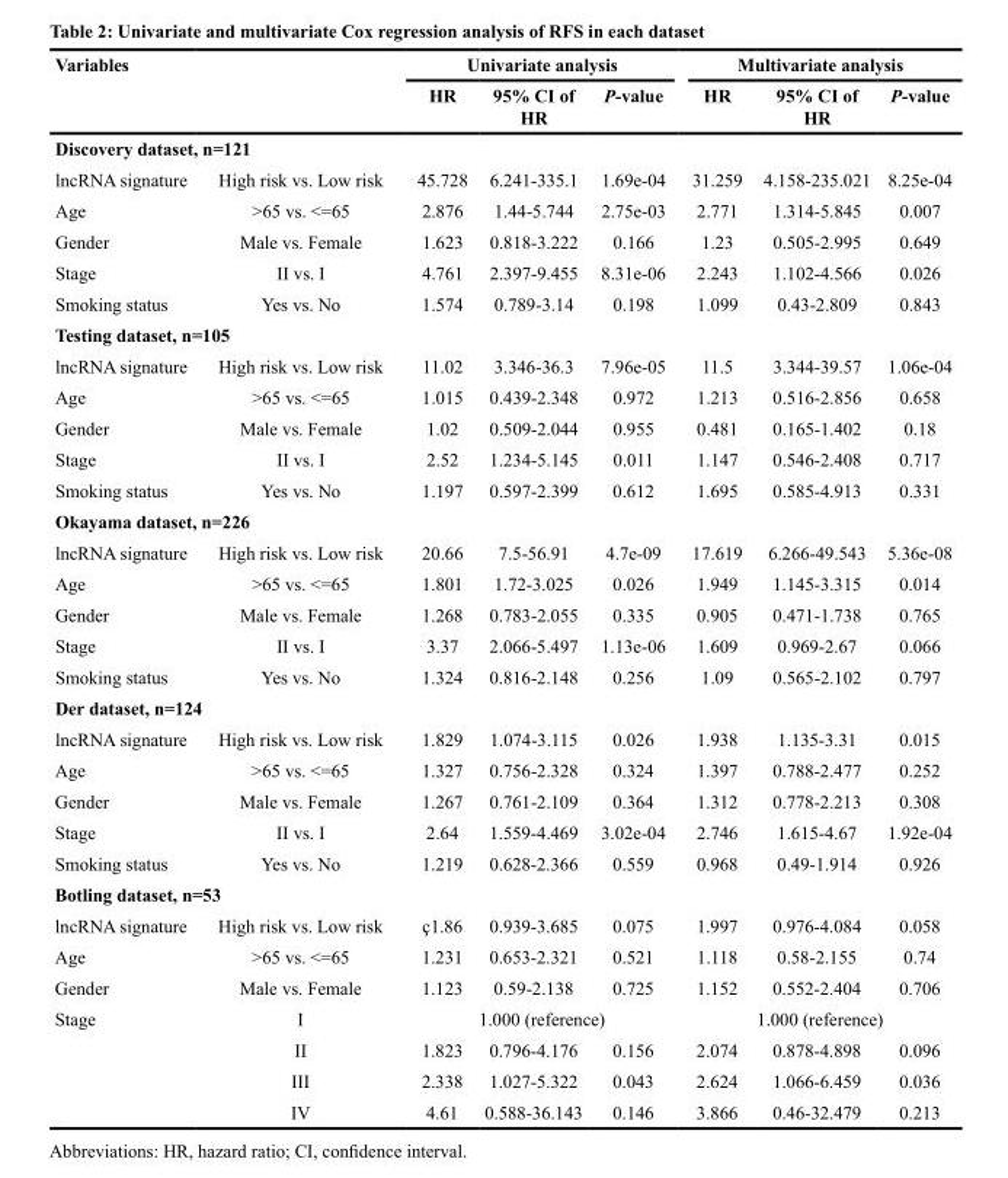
<table><thead><tr><td rowspan="2" colspan="2">Variables</td><td colspan="3">Univariate analysis</td><td colspan="3">Multivariate analysis</td></tr><tr><td>HR</td><td>95% CI of HR</td><td>P -value</td><td>HR</td><td>95% CI of HR</td><td>P -value</td></tr><tr><td colspan="8">Discovery dataset, n=121</td></tr><tr><td>lncRNA signature</td><td>High risk vs. Low risk</td><td>45.728</td><td>6.241-335.1</td><td>1.69e-04</td><td>31.259</td><td>4.158-235.021</td><td>8.25e-04</td></tr></thead><tbody><tr><td>Age</td><td>&gt;65 vs. &lt;=65</td><td>2.876</td><td>1.44-5.744</td><td>2.75e-03</td><td>2.771</td><td>1.314-5.845</td><td>0.007</td></tr><tr><td>Gender</td><td>Male vs. Female</td><td>1.623</td><td>0.818-3.222</td><td>0.166</td><td>1.23</td><td>0.505-2.995</td><td>0.649</td></tr><tr><td>Stage</td><td>II vs. I</td><td>4.761</td><td>2.397-9.455</td><td>8.31e-06</td><td>2.243</td><td>1.102-4.566</td><td>0.026</td></tr><tr><td>Smoking status</td><td>Yes vs. No</td><td>1.574</td><td>0.789-3.14</td><td>0.198</td><td>1.099</td><td>0.43-2.809</td><td>0.843</td></tr><tr><td colspan="8">Testing dataset, n=105</td></tr><tr><td>lncRNA signature</td><td>High risk vs. Low risk</td><td>11.02</td><td>3.346-36.3</td><td>7.96e-05</td><td>11.5</td><td>3.344-39.57</td><td>1.06e-04</td></tr><tr><td>Age</td><td>&gt;65 vs. &lt;=65</td><td>1.015</td><td>0.439-2.348</td><td>0.972</td><td>1.213</td><td>0.516-2.856</td><td>0.658</td></tr><tr><td>Gender</td><td>Male vs. Female</td><td>1.02</td><td>0.509-2.044</td><td>0.955</td><td>0.481</td><td>0.165-1.402</td><td>0.18</td></tr><tr><td>Stage</td><td>II vs. I</td><td>2.52</td><td>1.234-5.145</td><td>0.011</td><td>1.147</td><td>0.546-2.408</td><td>0.717</td></tr><tr><td>Smoking status</td><td>Yes vs. No</td><td>1.197</td><td>0.597-2.399</td><td>0.612</td><td>1.695</td><td>0.585-4.913</td><td>0.331</td></tr><tr><td colspan="8">Okayama dataset, n=226</td></tr><tr><td>lncRNA signature</td><td>High risk vs. Low risk</td><td>20.66</td><td>7.5-56.91</td><td>4.7e-09</td><td>17.619</td><td>6.266-49.543</td><td>5.36e-08</td></tr><tr><td>Age</td><td>&gt;65 vs. &lt;=65</td><td>1.801</td><td>1.72-3.025</td><td>0.026</td><td>1.949</td><td>1.145-3.315</td><td>0.014</td></tr><tr><td>Gender</td><td>Male vs. Female</td><td>1.268</td><td>0.783-2.055</td><td>0.335</td><td>0.905</td><td>0.471-1.738</td><td>0.765</td></tr><tr><td>Stage</td><td>II vs. I</td><td>3.37</td><td>2.066-5.497</td><td>1.13e-06</td><td>1.609</td><td>0.969-2.67</td><td>0.066</td></tr><tr><td>Smoking status</td><td>Yes vs. No</td><td>1.324</td><td>0.816-2.148</td><td>0.256</td><td>1.09</td><td>0.565-2.102</td><td>0.797</td></tr><tr><td colspan="8">Der dataset, n=124</td></tr><tr><td>lncRNA signature</td><td>High risk vs. Low risk</td><td>1.829</td><td>1.074-3.115</td><td>0.026</td><td>1.938</td><td>1.135-3.31</td><td>0.015</td></tr><tr><td>Age</td><td>&gt;65 vs. &lt;=65</td><td>1.327</td><td>0.756-2.328</td><td>0.324</td><td>1.397</td><td>0.788-2.477</td><td>0.252</td></tr><tr><td>Gender</td><td>Male vs. Female</td><td>1.267</td><td>0.761-2.109</td><td>0.364</td><td>1.312</td><td>0.778-2.213</td><td>0.308</td></tr><tr><td>Stage</td><td>II vs. I</td><td>2.64</td><td>1.559-4.469</td><td>3.02e-04</td><td>2.746</td><td>1.615-4.67</td><td>1.92e-04</td></tr><tr><td>Smoking status</td><td>Yes vs. No</td><td>1.219</td><td>0.628-2.366</td><td>0.559</td><td>0.968</td><td>0.49-1.914</td><td>0.926</td></tr><tr><td colspan="8">Botling dataset, n=53</td></tr><tr><td>lncRNA signature</td><td>High risk vs. Low risk</td><td>ç 1.86</td><td>0.939-3.685</td><td>0.075</td><td>1.997</td><td>0.976-4.084</td><td>0.058</td></tr><tr><td>Age</td><td>&gt;65 vs. &lt;=65</td><td>1.231</td><td>0.653-2.321</td><td>0.521</td><td>1.118</td><td>0.58-2.155</td><td>0.74</td></tr><tr><td>Gender</td><td>Male vs. Female</td><td>1.123</td><td>0.59-2.138</td><td>0.725</td><td>1.152</td><td>0.552-2.404</td><td>0.706</td></tr><tr><td rowspan="4">Stage</td><td>I</td><td colspan="3">1.000 (reference)</td><td colspan="3">1.000 (reference)</td></tr><tr><td>II</td><td>1.823</td><td>0.796-4.176</td><td>0.156</td><td>2.074</td><td>0.878-4.898</td><td>0.096</td></tr><tr><td>III</td><td>2.338</td><td>1.027-5.322</td><td>0.043</td><td>2.624</td><td>1.066-6.459</td><td>0.036</td></tr><tr><td>IV</td><td>4.61</td><td>0.588-36.143</td><td>0.146</td><td>3.866</td><td>0.46-32.479</td><td>0.213</td></tr></tbody></table>